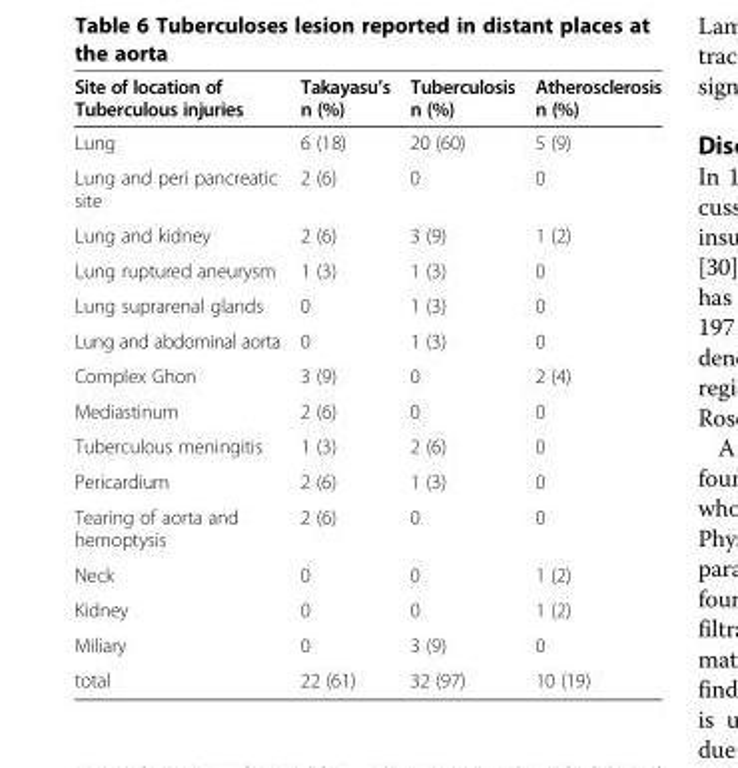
<table><thead><tr><td>Site of location of Tuberculous injuries</td><td>Takayasu’s n (%)</td><td>Tuberculosis n (%)</td><td>Atherosclerosis n (%)</td></tr></thead><tbody><tr><td>Lung</td><td>6 (18)</td><td>20 (60)</td><td>5 (9)</td></tr><tr><td>Lung and peri pancreatic site</td><td>2 (6)</td><td>0</td><td>0</td></tr><tr><td>Lung and kidney</td><td>2 (6)</td><td>3 (9)</td><td>1 (2)</td></tr><tr><td>Lung ruptured aneurysm</td><td>1 (3)</td><td>1 (3)</td><td>0</td></tr><tr><td>Lung suprarenal glands</td><td>0</td><td>1 (3)</td><td>0</td></tr><tr><td>Lung and abdominal aorta</td><td>0</td><td>1 (3)</td><td>0</td></tr><tr><td>Complex Ghon</td><td>3 (9)</td><td>0</td><td>2 (4)</td></tr><tr><td>Mediastinum</td><td>2 (6)</td><td>0</td><td>0</td></tr><tr><td>Tuberculous meningitis</td><td>1 (3)</td><td>2 (6)</td><td>0</td></tr><tr><td>Pericardium</td><td>2 (6)</td><td>1 (3)</td><td>0</td></tr><tr><td>Tearing of aorta and hemoptysis</td><td>2 (6)</td><td>0</td><td>0</td></tr><tr><td>Neck</td><td>0</td><td>0</td><td>1 (2)</td></tr><tr><td>Kidney</td><td>0</td><td>0</td><td>1 (2)</td></tr><tr><td>Miliary</td><td>0</td><td>3 (9)</td><td>0</td></tr><tr><td>total</td><td>22 (61)</td><td>32 (97)</td><td>10 (19)</td></tr></tbody></table>